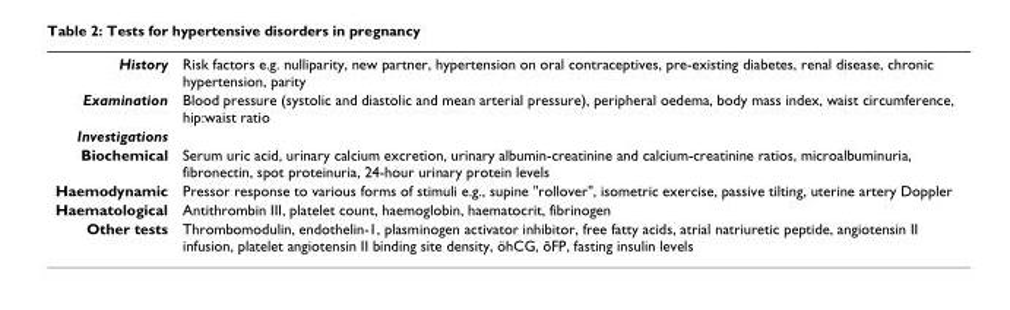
<table><tbody><tr><td>History</td><td>Risk factors e.g. nulliparity, new partner, hypertension on oral contraceptives, pre-existing diabetes, renal disease, chronic hypertension, parity</td></tr><tr><td>Examination</td><td>Blood pressure (systolic and diastolic and mean arterial pressure), peripheral oedema, body mass index, waist circumference, hip:waist ratio</td></tr><tr><td colspan="2">Investigations</td></tr><tr><td>Biochemical</td><td>Serum uric acid, urinary calcium excretion, urinary albumin-creatinine and calcium-creatinine ratios, microalbuminuria, fibronectin, spot proteinuria, 24-hour urinary protein levels</td></tr><tr><td>Haemodynamic</td><td>Pressor response to various forms of stimuli e.g., supine &quot;rollover&quot;, isometric exercise, passive tilting, uterine artery Doppler</td></tr><tr><td>Haematological</td><td>Antithrombin III, platelet count, haemoglobin, haematocrit, fibrinogen</td></tr><tr><td>Other tests</td><td>Thrombomodulin, endothelin-1, plasminogen activator inhibitor, free fatty acids, atrial natriuretic peptide, angiotensin II infusion, platelet angiotensin II binding site density, öhCG, õFP, fasting insulin levels</td></tr></tbody></table>